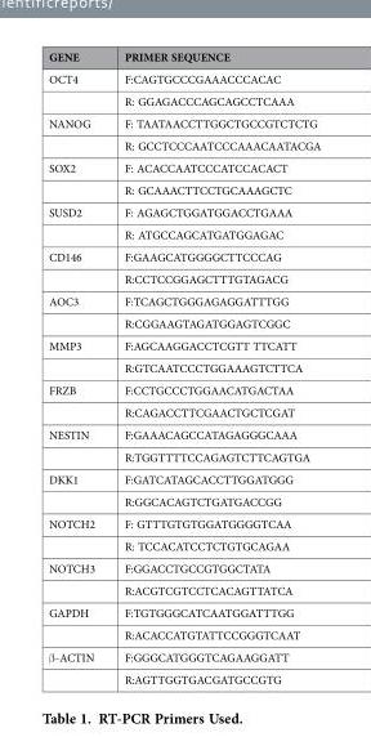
<table><thead><tr><td>GENE</td><td>PRIMER SEQUENCE</td></tr></thead><tbody><tr><td rowspan="2">OCT4</td><td>F:CAGTGCCCGAAACCCACAC</td></tr><tr><td>R: GGAGACCCAGCAGCCTCAAA</td></tr><tr><td rowspan="2">NANOG</td><td>F: TAATAACCTTGGCTGCCGTCTCTG</td></tr><tr><td>R: GCCTCCCAATCCCAAACAATACGA</td></tr><tr><td rowspan="2">SOX2</td><td>F: ACACCAATCCCATCCACACT</td></tr><tr><td>R: GCAAACTTCCTGCAAAGCTC</td></tr><tr><td rowspan="2">SUSD2</td><td>F: AGAGCTGGATGGACCTGAAA</td></tr><tr><td>R: ATGCCAGCATGATGGAGAC</td></tr><tr><td rowspan="2">CD146</td><td>F:GAAGCATGGGGCTTCCCAG</td></tr><tr><td>R:CCTCCGGAGCTTTGTAGACG</td></tr><tr><td rowspan="2">AOC3</td><td>F:TCAGCTGGGAGAGGATTTGG</td></tr><tr><td>R:CGGAAGTAGATGGAGTCGGC</td></tr><tr><td rowspan="2">MMP3</td><td>F:AGCAAGGACCTCGTT TTCATT</td></tr><tr><td>R:GTCAATCCCTGGAAAGTCTTCA</td></tr><tr><td rowspan="2">FRZB</td><td>F:CCTGCCCTGGAACATGACTAA</td></tr><tr><td>R:CAGACCTTCGAACTGCTCGAT</td></tr><tr><td rowspan="2">NESTIN</td><td>F:GAAACAGCCATAGAGGGCAAA</td></tr><tr><td>R:TGGTTTTCCAGAGTCTTCAGTGA</td></tr><tr><td rowspan="2">DKK1</td><td>F:GATCATAGCACCTTGGATGGG</td></tr><tr><td>R:GGCACAGTCTGATGACCGG</td></tr><tr><td rowspan="2">NOTCH2</td><td>F: GTTTGTGTGGATGGGGTCAA</td></tr><tr><td>R: TCCACATCCTCTGTGCAGAA</td></tr><tr><td rowspan="2">NOTCH3</td><td>F:GGACCTGCCGTGGCTATA</td></tr><tr><td>R:ACGTCGTCCTCACAGTTATCA</td></tr><tr><td rowspan="2">GAPDH</td><td>F:TGTGGGCATCAATGGATTTGG</td></tr><tr><td>R:ACACCATGTATTCCGGGTCAAT</td></tr><tr><td rowspan="2">β -ACTIN</td><td>F:GGGCATGGGTCAGAAGGATT</td></tr><tr><td>R:AGTTGGTGACGATGCCGTG</td></tr></tbody></table>